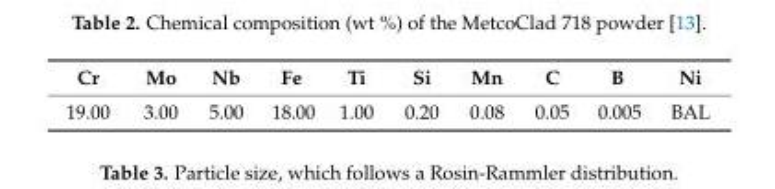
<table><thead><tr><td>Cr</td><td>Mo</td><td>Nb</td><td>Fe</td><td>Ti</td><td>Si</td><td>Mn</td><td>C</td><td>B</td><td>Ni</td></tr></thead><tbody><tr><td>19.00</td><td>3.00</td><td>5.00</td><td>18.00</td><td>1.00</td><td>0.20</td><td>0.08</td><td>0.05</td><td>0.005</td><td>BAL</td></tr></tbody></table>